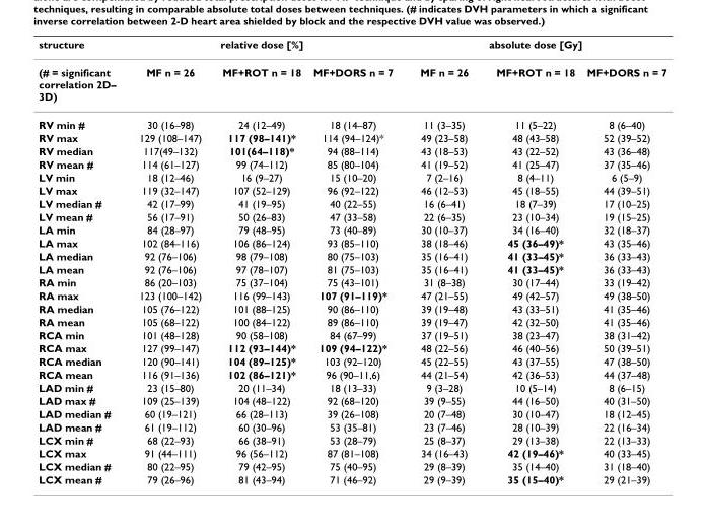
<table><thead><tr><td rowspan="2">structure (# = significant correlation 2D– 3D)</td><td colspan="3">relative dose [%]</td><td colspan="3">absolute dose [Gy]</td></tr><tr><td>MF n = 26</td><td>MF+ROT n = 18</td><td>MF+DORS n = 7</td><td>MF n = 26</td><td>MF+ROT n = 18</td><td>MF+DORS n = 7</td></tr></thead><tbody><tr><td>RV min #</td><td>30 (16–98)</td><td>24 (12–49)</td><td>18 (14–87)</td><td>11 (3–35)</td><td>11 (5–22)</td><td>8 (6–40)</td></tr><tr><td>RV max</td><td>129 (108–147)</td><td>117 (98–141)*</td><td>114 (94–124)*</td><td>49 (23–58)</td><td>48 (43–58)</td><td>52 (39–52)</td></tr><tr><td>RV median</td><td>117(49–132)</td><td>101(64–118)*</td><td>94 (88–114)</td><td>43 (18–53)</td><td>43 (22–52)</td><td>43 (36–48)</td></tr><tr><td>RV mean #</td><td>114 (61–127)</td><td>99 (74–112)</td><td>85 (80–104)</td><td>41 (19–52)</td><td>41 (25–47)</td><td>37 (35–46)</td></tr><tr><td>LV min</td><td>18 (12–46)</td><td>16 (9–27)</td><td>15 (10–20)</td><td>7 (2–16)</td><td>8 (4–11)</td><td>6 (5–9)</td></tr><tr><td>LV max</td><td>119 (32–147)</td><td>107 (52–129)</td><td>96 (92–122)</td><td>46 (12–53)</td><td>45 (18–55)</td><td>44 (39–51)</td></tr><tr><td>LV median #</td><td>42 (17–99)</td><td>41 (19–95)</td><td>40 (22–55)</td><td>16 (6–41)</td><td>18 (7–39)</td><td>17 (10–25)</td></tr><tr><td>LV mean #</td><td>56 (17–91)</td><td>50 (26–83)</td><td>47 (33–58)</td><td>22 (6–35)</td><td>23 (10–34)</td><td>19 (15–25)</td></tr><tr><td>LA min</td><td>84 (28–97)</td><td>79 (48–95)</td><td>73 (40–89)</td><td>30 (10–37)</td><td>34 (16–40)</td><td>32 (18–37)</td></tr><tr><td>LA max</td><td>102 (84–116)</td><td>106 (86–124)</td><td>93 (85–110)</td><td>38 (18–46)</td><td>45 (36–49)*</td><td>43 (35–46)</td></tr><tr><td>LA median</td><td>92 (76–106)</td><td>98 (79–108)</td><td>80 (75–103)</td><td>35 (16–41)</td><td>41 (33–45)*</td><td>36 (33–43)</td></tr><tr><td>LA mean</td><td>92 (76–106)</td><td>97 (78–107)</td><td>81 (75–103)</td><td>35 (16–41)</td><td>41 (33–45)*</td><td>36 (33–43)</td></tr><tr><td>RA min</td><td>86 (20–103)</td><td>75 (37–104)</td><td>75 (43–101)</td><td>31 (8–38)</td><td>30 (17–44)</td><td>33 (19–42)</td></tr><tr><td>RA max</td><td>123 (100–142)</td><td>116 (99–143)</td><td>107 (91–119)*</td><td>47 (21–55)</td><td>49 (42–57)</td><td>49 (38–50)</td></tr><tr><td>RA median</td><td>105 (76–122)</td><td>101 (88–125)</td><td>90 (86–110)</td><td>39 (19–48)</td><td>43 (33–51)</td><td>41 (35–46)</td></tr><tr><td>RA mean</td><td>105 (68–122)</td><td>100 (84–122)</td><td>89 (86–110)</td><td>39 (19–47)</td><td>42 (32–50)</td><td>41 (35–46)</td></tr><tr><td>RCA min</td><td>101 (48–128)</td><td>90 (58–108)</td><td>84 (67–99)</td><td>37 (19–51)</td><td>38 (23–47)</td><td>38 (31–42)</td></tr><tr><td>RCA max</td><td>127 (99–147)</td><td>112 (93–144)*</td><td>109 (94–122)*</td><td>48 (22–56)</td><td>46 (40–56)</td><td>50 (39–51)</td></tr><tr><td>RCA median</td><td>120 (90–141)</td><td>104 (89–125)*</td><td>103 (92–120)</td><td>45 (22–55)</td><td>43 (37–55)</td><td>47 (38–50)</td></tr><tr><td>RCA mean</td><td>116 (91–136)</td><td>102 (86–121)*</td><td>96 (90–11,6)</td><td>44 (21–54)</td><td>42 (36–53)</td><td>44 (37–48)</td></tr><tr><td>LAD min #</td><td>23 (15–80)</td><td>20 (11–34)</td><td>18 (13–33)</td><td>9 (3–28)</td><td>10 (5–14)</td><td>8 (6–15)</td></tr><tr><td>LAD max #</td><td>109 (25–139)</td><td>104 (48–122)</td><td>92 (68–120)</td><td>39 (9–55)</td><td>44 (16–50)</td><td>40 (31–50)</td></tr><tr><td>LAD median #</td><td>60 (19–121)</td><td>66 (28–113)</td><td>39 (26–108)</td><td>20 (7–48)</td><td>30 (10–47)</td><td>18 (12–45)</td></tr><tr><td>LAD mean #</td><td>61 (19–112)</td><td>60 (30–96)</td><td>53 (35–81)</td><td>23 (7–46)</td><td>28 (10–39)</td><td>22 (16–34)</td></tr><tr><td>LCX min #</td><td>68 (22–93)</td><td>66 (38–91)</td><td>53 (28–79)</td><td>25 (8–37)</td><td>29 (13–38)</td><td>22 (13–33)</td></tr><tr><td>LCX max</td><td>91 (44–111)</td><td>96 (56–112)</td><td>87 (81–108)</td><td>34 (16–43)</td><td>42 (19–46)*</td><td>40 (33–45)</td></tr><tr><td>LCX median #</td><td>80 (22–95)</td><td>79 (42–95)</td><td>75 (40–95)</td><td>29 (8–39)</td><td>35 (14–40)</td><td>31 (18–40)</td></tr><tr><td>LCX mean #</td><td>79 (26–96)</td><td>81 (43–94)</td><td>71 (46–92)</td><td>29 (9–39)</td><td>35 (15–40)*</td><td>29 (21–39)</td></tr></tbody></table>